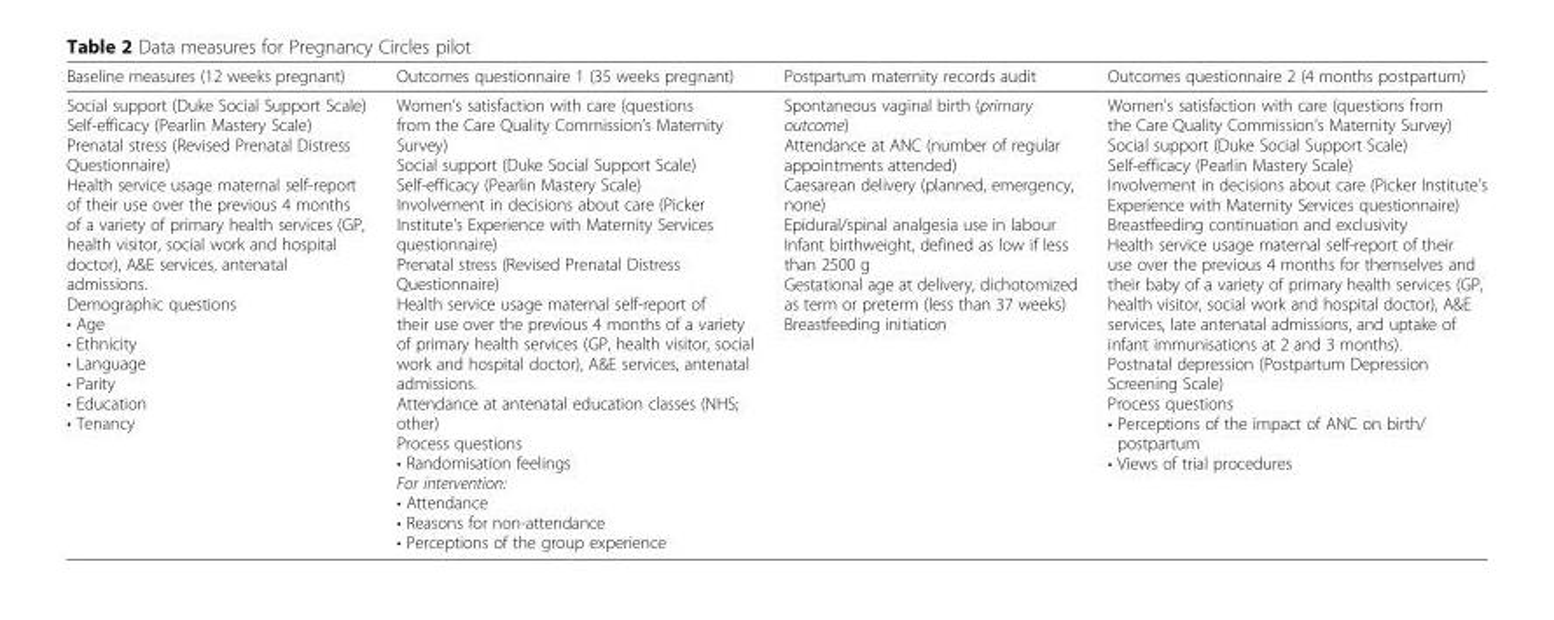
<table><thead><tr><td>Baseline measures (12 weeks pregnant)</td><td>Outcomes questionnaire 1 (35 weeks pregnant)</td><td>Postpartum maternity records audit</td><td>Outcomes questionnaire 2 (4 months postpartum)</td></tr></thead><tbody><tr><td>Social support (Duke Social Support Scale) Self-efficacy (Pearlin Mastery Scale) Prenatal stress (Revised Prenatal Distress Questionnaire) Health service usage maternal self-report of their use over the previous 4 months of a variety of primary health services (GP, health visitor, social work and hospital doctor), A&amp;E services, antenatal admissions. Demographic questions • Age • Ethnicity • Language • Parity • Education • Tenancy</td><td>Women’s satisfaction with care (questions from the Care Quality Commission’s Maternity Survey) Social support (Duke Social Support Scale) Self-efficacy (Pearlin Mastery Scale) Involvement in decisions about care (Picker Institute’s Experience with Maternity Services questionnaire) Prenatal stress (Revised Prenatal Distress Questionnaire) Health service usage maternal self-report of their use over the previous 4 months of a variety of primary health services (GP, health visitor, social work and hospital doctor), A&amp;E services, antenatal admissions. Attendance at antenatal education classes (NHS; other) Process questions • Randomisation feelings For intervention: • Attendance • Reasons for non-attendance • Perceptions of the group experience</td><td>Spontaneous vaginal birth (primary outcome) Attendance at ANC (number of regular appointments attended) Caesarean delivery (planned, emergency, none) Epidural/spinal analgesia use in labour Infant birthweight, defined as low if less than 2500 g Gestational age at delivery, dichotomized as term or preterm (less than 37 weeks) Breastfeeding initiation</td><td>Women’s satisfaction with care (questions from the Care Quality Commission’s Maternity Survey) Social support (Duke Social Support Scale) Self-efficacy (Pearlin Mastery Scale) Involvement in decisions about care (Picker Institute’s Experience with Maternity Services questionnaire) Breastfeeding continuation and exclusivity Health service usage maternal self-report of their use over the previous 4 months for themselves and their baby of a variety of primary health services (GP, health visitor, social work and hospital doctor), A&amp;E services, late antenatal admissions, and uptake of infant immunisations at 2 and 3 months). Postnatal depression (Postpartum Depression Screening Scale) Process questions • Perceptions of the impact of ANC on birth/ postpartum • Views of trial procedures</td></tr></tbody></table>